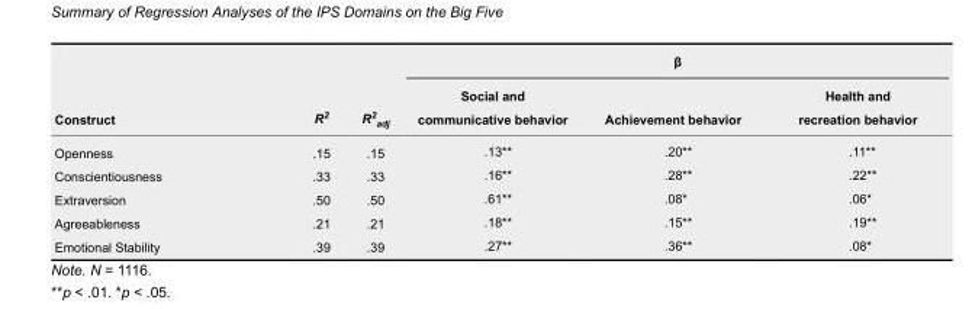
<table><thead><tr><td rowspan="2">Construct</td><td rowspan="2">R<sup>2</sup></td><td rowspan="2">R<sup>2</sup> <sub>adj</sub></td><td colspan="3">β</td></tr><tr><td>Social and communicative behavior</td><td>Achievement behavior</td><td>Health and recreation behavior</td></tr></thead><tbody><tr><td>Openness</td><td>.15</td><td>.15</td><td>.13**</td><td>.20**</td><td>.11**</td></tr><tr><td>Conscientiousness</td><td>.33</td><td>.33</td><td>.16**</td><td>.28**</td><td>.22**</td></tr><tr><td>Extraversion</td><td>.50</td><td>.50</td><td>.61**</td><td>.08*</td><td>.06*</td></tr><tr><td>Agreeableness</td><td>.21</td><td>.21</td><td>.18**</td><td>.15**</td><td>.19**</td></tr><tr><td>Emotional Stability</td><td>.39</td><td>.39</td><td>.27**</td><td>.36**</td><td>.08*</td></tr></tbody></table>